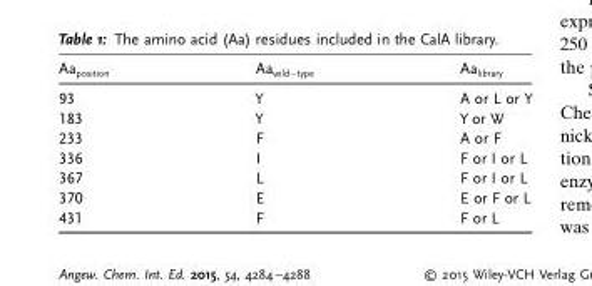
<table><thead><tr><td>Aa<sub>position</sub></td><td>Aa<sub>wild−type</sub></td><td>Aa<sub>library</sub></td></tr></thead><tbody><tr><td>93</td><td>Y</td><td>A or L or Y</td></tr><tr><td>183</td><td>Y</td><td>Y or W</td></tr><tr><td>233</td><td>F</td><td>A or F</td></tr><tr><td>336</td><td>I</td><td>F or I or L</td></tr><tr><td>367</td><td>L</td><td>F or I or L</td></tr><tr><td>370</td><td>E</td><td>E or F or L</td></tr><tr><td>431</td><td>F</td><td>F or L</td></tr></tbody></table>